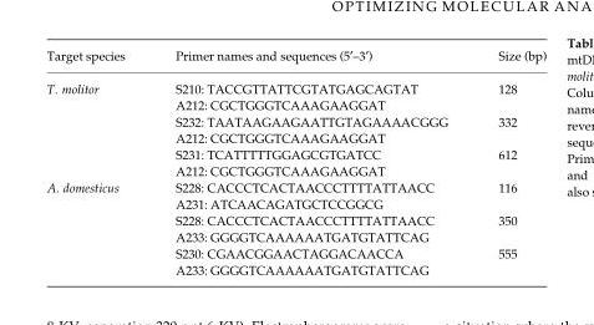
<table><thead><tr><td>Target species</td><td>Primer names and sequences (5¢–3¢)</td><td>Size (bp)</td></tr></thead><tbody><tr><td rowspan="6">T. molitor</td><td>S210: TACCGTTATTCGTATGAGCAGTAT</td><td>128</td></tr><tr><td>A212: CGCTGGGTCAAAGAAGGAT</td><td></td></tr><tr><td>S232: TAATAAGAAGAATTGTAGAAAACGGG</td><td>332</td></tr><tr><td>A212: CGCTGGGTCAAAGAAGGAT</td><td></td></tr><tr><td>S231: TCATTTTTGGAGCGTGATCC</td><td>612</td></tr><tr><td>A212: CGCTGGGTCAAAGAAGGAT</td><td></td></tr><tr><td rowspan="6">A. domesticus</td><td>S228: CACCCTCACTAACCCTTTTATTAACC</td><td>116</td></tr><tr><td>A231: ATCAACAGATGCTCCGGCG</td><td></td></tr><tr><td>S228: CACCCTCACTAACCCTTTTATTAACC</td><td>350</td></tr><tr><td>A233: GGGGTCAAAAAATGATGTATTCAG</td><td></td></tr><tr><td>S230: CGAACGGAACTAGGACAACCA</td><td>555</td></tr><tr><td>A233: GGGGTCAAAAAATGATGTATTCAG</td><td></td></tr></tbody></table>